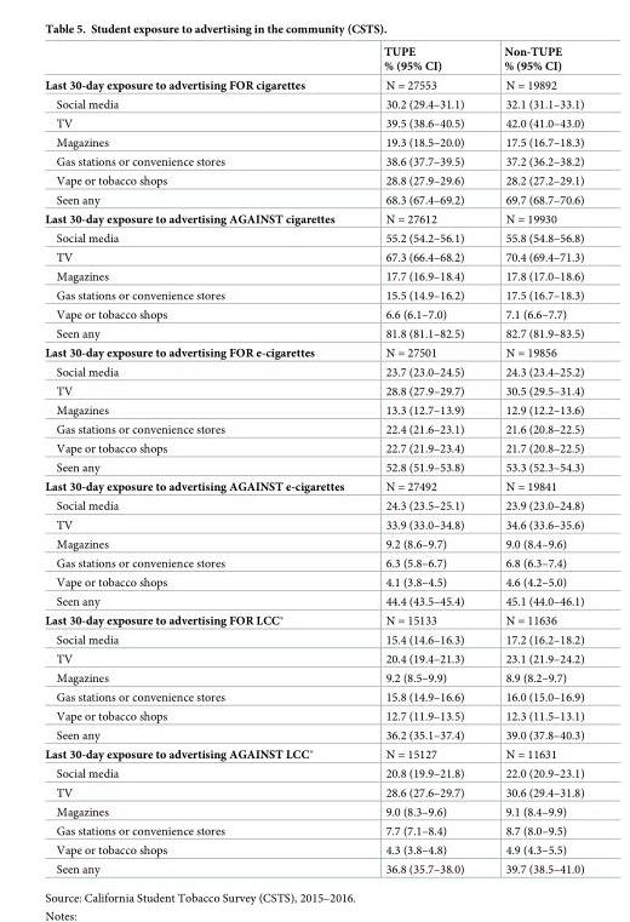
<table><thead><tr><td></td><td>TUPE % (95% CI)</td><td>Non-TUPE % (95% CI)</td></tr></thead><tbody><tr><td>Last 30-day exposure to advertising FOR cigarettes</td><td>N = 27553</td><td>N = 19892</td></tr><tr><td>Social media</td><td>30.2 (29.4–31.1)</td><td>32.1 (31.1–33.1)</td></tr><tr><td>TV</td><td>39.5 (38.6–40.5)</td><td>42.0 (41.0–43.0)</td></tr><tr><td>Magazines</td><td>19.3 (18.5–20.0)</td><td>17.5 (16.7–18.3)</td></tr><tr><td>Gas stations or convenience stores</td><td>38.6 (37.7–39.5)</td><td>37.2 (36.2–38.2)</td></tr><tr><td>Vape or tobacco shops</td><td>28.8 (27.9–29.6)</td><td>28.2 (27.2–29.1)</td></tr><tr><td>Seen any</td><td>68.3 (67.4–69.2)</td><td>69.7 (68.7–70.6)</td></tr><tr><td>Last 30-day exposure to advertising AGAINST cigarettes</td><td>N = 27612</td><td>N = 19930</td></tr><tr><td>Social media</td><td>55.2 (54.2–56.1)</td><td>55.8 (54.8–56.8)</td></tr><tr><td>TV</td><td>67.3 (66.4–68.2)</td><td>70.4 (69.4–71.3)</td></tr><tr><td>Magazines</td><td>17.7 (16.9–18.4)</td><td>17.8 (17.0–18.6)</td></tr><tr><td>Gas stations or convenience stores</td><td>15.5 (14.9–16.2)</td><td>17.5 (16.7–18.3)</td></tr><tr><td>Vape or tobacco shops</td><td>6.6 (6.1–7.0)</td><td>7.1 (6.6–7.7)</td></tr><tr><td>Seen any</td><td>81.8 (81.1–82.5)</td><td>82.7 (81.9–83.5)</td></tr><tr><td>Last 30-day exposure to advertising FOR e-cigarettes</td><td>N = 27501</td><td>N = 19856</td></tr><tr><td>Social media</td><td>23.7 (23.0–24.5)</td><td>24.3 (23.4–25.2)</td></tr><tr><td>TV</td><td>28.8 (27.9–29.7)</td><td>30.5 (29.5–31.4)</td></tr><tr><td>Magazines</td><td>13.3 (12.7–13.9)</td><td>12.9 (12.2–13.6)</td></tr><tr><td>Gas stations or convenience stores</td><td>22.4 (21.6–23.1)</td><td>21.6 (20.8–22.5)</td></tr><tr><td>Vape or tobacco shops</td><td>22.7 (21.9–23.4)</td><td>21.7 (20.8–22.5)</td></tr><tr><td>Seen any</td><td>52.8 (51.9–53.8)</td><td>53.3 (52.3–54.3)</td></tr><tr><td>Last 30-day exposure to advertising AGAINST e-cigarettes</td><td>N = 27492</td><td>N = 19841</td></tr><tr><td>Social media</td><td>24.3 (23.5–25.1)</td><td>23.9 (23.0–24.8)</td></tr><tr><td>TV</td><td>33.9 (33.0–34.8)</td><td>34.6 (33.6–35.6)</td></tr><tr><td>Magazines</td><td>9.2 (8.6–9.7)</td><td>9.0 (8.4–9.6)</td></tr><tr><td>Gas stations or convenience stores</td><td>6.3 (5.8–6.7)</td><td>6.8 (6.3–7.4)</td></tr><tr><td>Vape or tobacco shops</td><td>4.1 (3.8–4.5)</td><td>4.6 (4.2–5.0)</td></tr><tr><td>Seen any</td><td>44.4 (43.5–45.4)</td><td>45.1 (44.0–46.1)</td></tr><tr><td>Last 30-day exposure to advertising FOR LCC*</td><td>N = 15133</td><td>N = 11636</td></tr><tr><td>Social media</td><td>15.4 (14.6–16.3)</td><td>17.2 (16.2–18.2)</td></tr><tr><td>TV</td><td>20.4 (19.4–21.3)</td><td>23.1 (21.9–24.2)</td></tr><tr><td>Magazines</td><td>9.2 (8.5–9.9)</td><td>8.9 (8.2–9.7)</td></tr><tr><td>Gas stations or convenience stores</td><td>15.8 (14.9–16.6)</td><td>16.0 (15.0–16.9)</td></tr><tr><td>Vape or tobacco shops</td><td>12.7 (11.9–13.5)</td><td>12.3 (11.5–13.1)</td></tr><tr><td>Seen any</td><td>36.2 (35.1–37.4)</td><td>39.0 (37.8–40.3)</td></tr><tr><td>Last 30-day exposure to advertising AGAINST LCC*</td><td>N = 15127</td><td>N = 11631</td></tr><tr><td>Social media</td><td>20.8 (19.9–21.8)</td><td>22.0 (20.9–23.1)</td></tr><tr><td>TV</td><td>28.6 (27.6–29.7)</td><td>30.6 (29.4–31.8)</td></tr><tr><td>Magazines</td><td>9.0 (8.3–9.6)</td><td>9.1 (8.4–9.9)</td></tr><tr><td>Gas stations or convenience stores</td><td>7.7 (7.1–8.4)</td><td>8.7 (8.0–9.5)</td></tr><tr><td>Vape or tobacco shops</td><td>4.3 (3.8–4.8)</td><td>4.9 (4.3–5.5)</td></tr><tr><td>Seen any</td><td>36.8 (35.7–38.0)</td><td>39.7 (38.5–41.0)</td></tr></tbody></table>